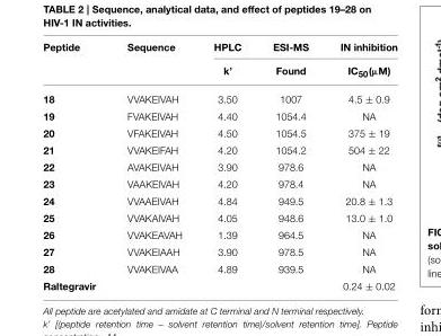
<table><thead><tr><td rowspan="2">Peptide</td><td rowspan="2">Sequence</td><td rowspan="2">HPLC k’</td><td rowspan="2">ESI-MS Found</td><td rowspan="2">IN inhibition IC<sub>50</sub>(µM)</td></tr><tr></tr></thead><tbody><tr><td>18</td><td>VVAKEIVAH</td><td>3.50</td><td>1007</td><td>4.5 ± 0.9</td></tr><tr><td>19</td><td>FVAKEIVAH</td><td>4.40</td><td>1054.4</td><td>NA</td></tr><tr><td>20</td><td>VFAKEIVAH</td><td>4.50</td><td>1054.5</td><td>375 ± 19</td></tr><tr><td>21</td><td>VVAKEIFAH</td><td>4.20</td><td>1054.2</td><td>504 ± 22</td></tr><tr><td>22</td><td>AVAKEIVAH</td><td>3.90</td><td>978.6</td><td>NA</td></tr><tr><td>23</td><td>VAAKEIVAH</td><td>4.20</td><td>978.4</td><td>NA</td></tr><tr><td>24</td><td>VVAAEIVAH</td><td>4.84</td><td>949.5</td><td>20.8 ± 1.3</td></tr><tr><td>25</td><td>VVAKAIVAH</td><td>4.05</td><td>948.6</td><td>13.0 ± 1.0</td></tr><tr><td>26</td><td>VVAKEAVAH</td><td>1.39</td><td>964.5</td><td>NA</td></tr><tr><td>27</td><td>VVAKEIAAH</td><td>3.90</td><td>978.5</td><td>NA</td></tr><tr><td>28</td><td>VVAKEIVAA</td><td>4.89</td><td>939.5</td><td>NA</td></tr><tr><td>Raltegravir</td><td></td><td></td><td></td><td>0.24 ± 0.02</td></tr></tbody></table>